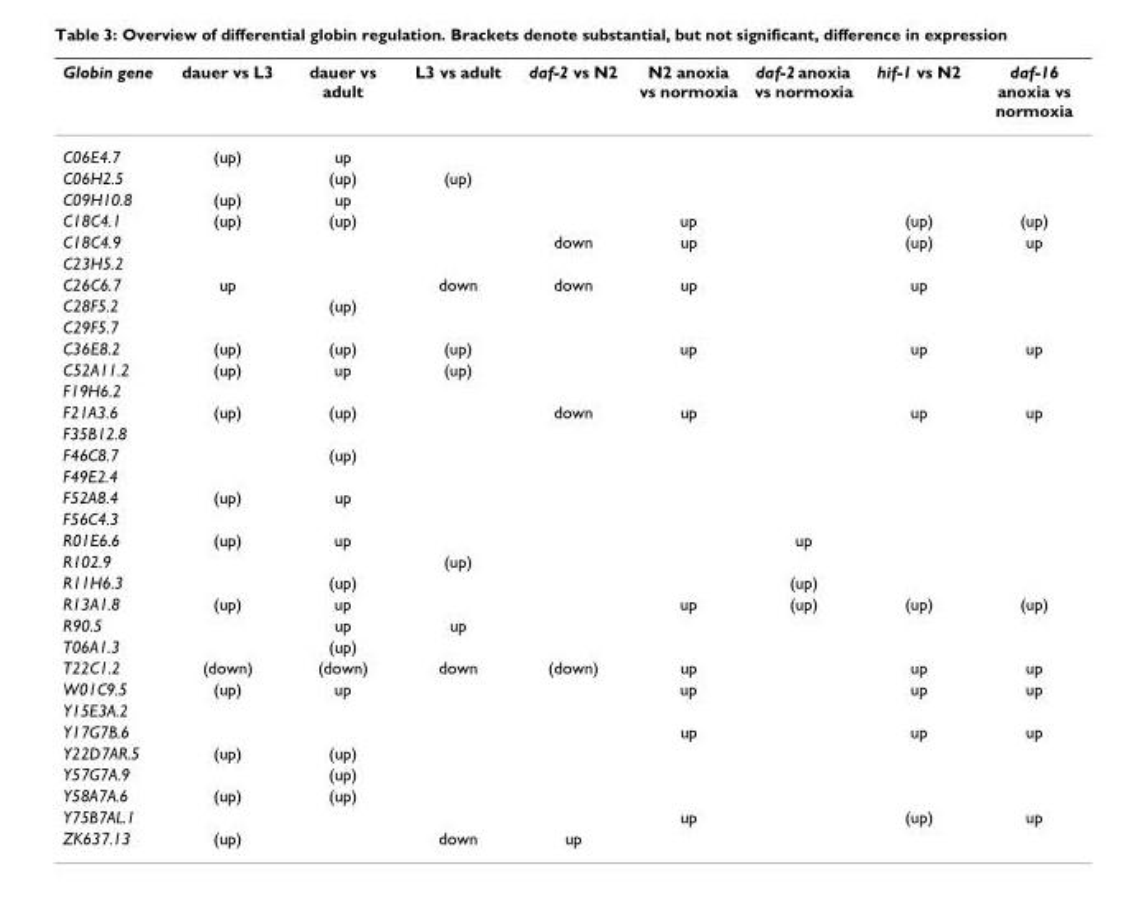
<table><thead><tr><td>Globin gene</td><td>dauer vs L3</td><td>dauer vs adult</td><td>L3 vs adult</td><td>daf-2 vs N2</td><td>N2 anoxia vs normoxia</td><td>daf-2 anoxia vs normoxia</td><td>hif-1 vs N2</td><td>daf-16 anoxia vs normoxia</td></tr></thead><tbody><tr><td>C06E4.7</td><td>(up)</td><td>up</td><td></td><td></td><td></td><td></td><td></td><td></td></tr><tr><td>C06H2.5</td><td></td><td>(up)</td><td>(up)</td><td></td><td></td><td></td><td></td><td></td></tr><tr><td>C09H10.8</td><td>(up)</td><td>up</td><td></td><td></td><td></td><td></td><td></td><td></td></tr><tr><td>C18C4.1</td><td>(up)</td><td>(up)</td><td></td><td></td><td>up</td><td></td><td>(up)</td><td>(up)</td></tr><tr><td>C18C4.9</td><td></td><td></td><td></td><td>down</td><td>up</td><td></td><td>(up)</td><td>up</td></tr><tr><td colspan="9">C23H5.2</td></tr><tr><td>C26C6.7</td><td>up</td><td></td><td>down</td><td>down</td><td>up</td><td></td><td>up</td><td></td></tr><tr><td>C28F5.2</td><td></td><td>(up)</td><td></td><td></td><td></td><td></td><td></td><td></td></tr><tr><td colspan="9">C29F5.7</td></tr><tr><td>C36E8.2</td><td>(up)</td><td>(up)</td><td>(up)</td><td></td><td>up</td><td></td><td>up</td><td>up</td></tr><tr><td>C52A11.2</td><td>(up)</td><td>up</td><td>(up)</td><td></td><td></td><td></td><td></td><td></td></tr><tr><td colspan="9">F19H6.2</td></tr><tr><td>F21A3.6</td><td>(up)</td><td>(up)</td><td></td><td>down</td><td>up</td><td></td><td>up</td><td>up</td></tr><tr><td colspan="9">F35B12.8</td></tr><tr><td>F46C8.7</td><td></td><td>(up)</td><td></td><td></td><td></td><td></td><td></td><td></td></tr><tr><td colspan="9">F49E2.4</td></tr><tr><td>F52A8.4</td><td>(up)</td><td>up</td><td></td><td></td><td></td><td></td><td></td><td></td></tr><tr><td colspan="9">F56C4.3</td></tr><tr><td>R01E6.6</td><td>(up)</td><td>up</td><td></td><td></td><td></td><td>up</td><td></td><td></td></tr><tr><td>R102.9</td><td></td><td></td><td>(up)</td><td></td><td></td><td></td><td></td><td></td></tr><tr><td>R11H6.3</td><td></td><td>(up)</td><td></td><td></td><td></td><td>(up)</td><td></td><td></td></tr><tr><td>R13A1.8</td><td>(up)</td><td>up</td><td></td><td></td><td>up</td><td>(up)</td><td>(up)</td><td>(up)</td></tr><tr><td>R90.5</td><td></td><td>up</td><td>up</td><td></td><td></td><td></td><td></td><td></td></tr><tr><td>T06A1.3</td><td></td><td>(up)</td><td></td><td></td><td></td><td></td><td></td><td></td></tr><tr><td>T22C1.2</td><td>(down)</td><td>(down)</td><td>down</td><td>(down)</td><td>up</td><td></td><td>up</td><td>up</td></tr><tr><td>W01C9.5</td><td>(up)</td><td>up</td><td></td><td></td><td>up</td><td></td><td>up</td><td>up</td></tr><tr><td colspan="9">Y15E3A.2</td></tr><tr><td>Y17G7B.6</td><td></td><td></td><td></td><td></td><td>up</td><td></td><td>up</td><td>up</td></tr><tr><td>Y22D7AR.5</td><td>(up)</td><td>(up)</td><td></td><td></td><td></td><td></td><td></td><td></td></tr><tr><td>Y57G7A.9</td><td></td><td>(up)</td><td></td><td></td><td></td><td></td><td></td><td></td></tr><tr><td>Y58A7A.6</td><td>(up)</td><td>(up)</td><td></td><td></td><td></td><td></td><td></td><td></td></tr><tr><td>Y75B7AL.1</td><td></td><td></td><td></td><td></td><td>up</td><td></td><td>(up)</td><td>up</td></tr><tr><td>ZK637.13</td><td>(up)</td><td></td><td>down</td><td>up</td><td></td><td></td><td></td><td></td></tr></tbody></table>